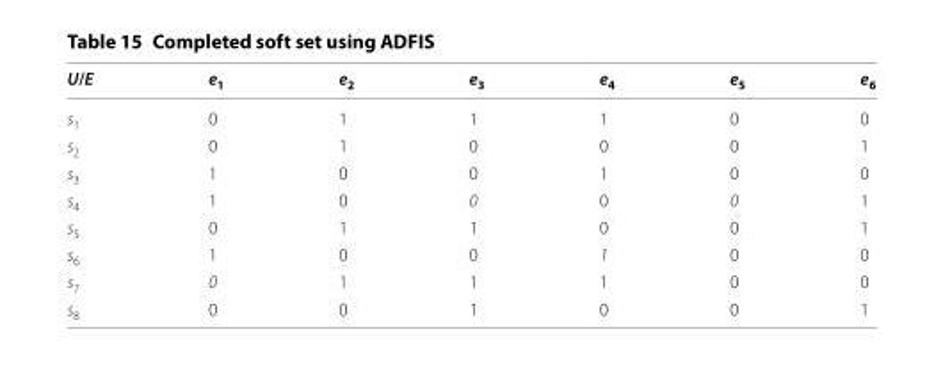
<table><thead><tr><td>U/E</td><td>e<sub>1</sub></td><td>e<sub>2</sub></td><td>e<sub>3</sub></td><td>e<sub>4</sub></td><td>e<sub>5</sub></td><td>e<sub>6</sub></td></tr></thead><tbody><tr><td>s<sub>1</sub></td><td>0</td><td>1</td><td>1</td><td>1</td><td>0</td><td>0</td></tr><tr><td>s<sub>2</sub></td><td>0</td><td>1</td><td>0</td><td>0</td><td>0</td><td>1</td></tr><tr><td>s<sub>3</sub></td><td>1</td><td>0</td><td>0</td><td>1</td><td>0</td><td>0</td></tr><tr><td>s<sub>4</sub></td><td>1</td><td>0</td><td>0</td><td>0</td><td>0</td><td>1</td></tr><tr><td>s<sub>5</sub></td><td>0</td><td>1</td><td>1</td><td>0</td><td>0</td><td>1</td></tr><tr><td>s<sub>6</sub></td><td>1</td><td>0</td><td>0</td><td>1</td><td>0</td><td>0</td></tr><tr><td>s<sub>7</sub></td><td>0</td><td>1</td><td>1</td><td>1</td><td>0</td><td>0</td></tr><tr><td>s<sub>8</sub></td><td>0</td><td>0</td><td>1</td><td>0</td><td>0</td><td>1</td></tr></tbody></table>